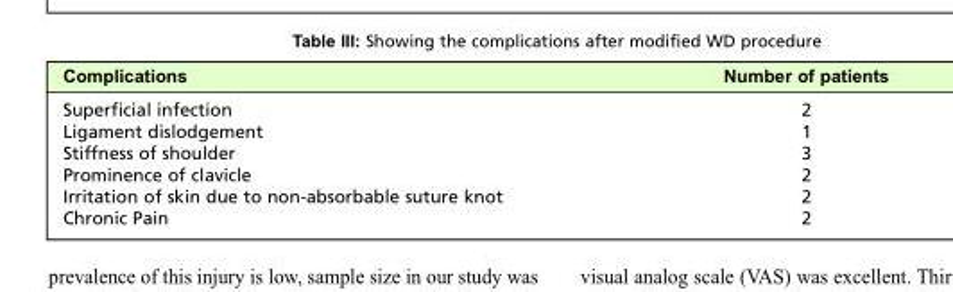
<table><thead><tr><td>Complications</td><td>Number of patients</td></tr></thead><tbody><tr><td>Superficial infection</td><td>2</td></tr><tr><td>Ligament dislodgement</td><td>1</td></tr><tr><td>Stiffness of shoulder</td><td>3</td></tr><tr><td>Prominence of clavicle</td><td>2</td></tr><tr><td>Irritation of skin due to non-absorbable suture knot</td><td>2</td></tr><tr><td>Chronic Pain</td><td>2</td></tr></tbody></table>